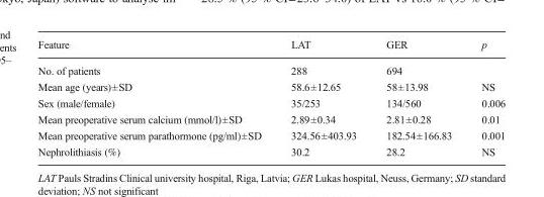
<table><thead><tr><td>Feature</td><td>LAT</td><td>GER</td><td>p</td></tr></thead><tbody><tr><td>No. of patients</td><td>288</td><td>694</td><td></td></tr><tr><td>Mean age (years)±SD</td><td>58.6±12.65</td><td>58±13.98</td><td>NS</td></tr><tr><td>Sex (male/female)</td><td>35/253</td><td>134/560</td><td>0.006</td></tr><tr><td>Mean preoperative serum calcium (mmol/l)±SD</td><td>2.89±0.34</td><td>2.81±0.28</td><td>0.01</td></tr><tr><td>Mean preoperative serum parathormone (pg/ml)±SD</td><td>324.56±403.93</td><td>182.54±166.83</td><td>0.001</td></tr><tr><td>Nephrolithiasis (%)</td><td>30.2</td><td>28.2</td><td>NS</td></tr></tbody></table>